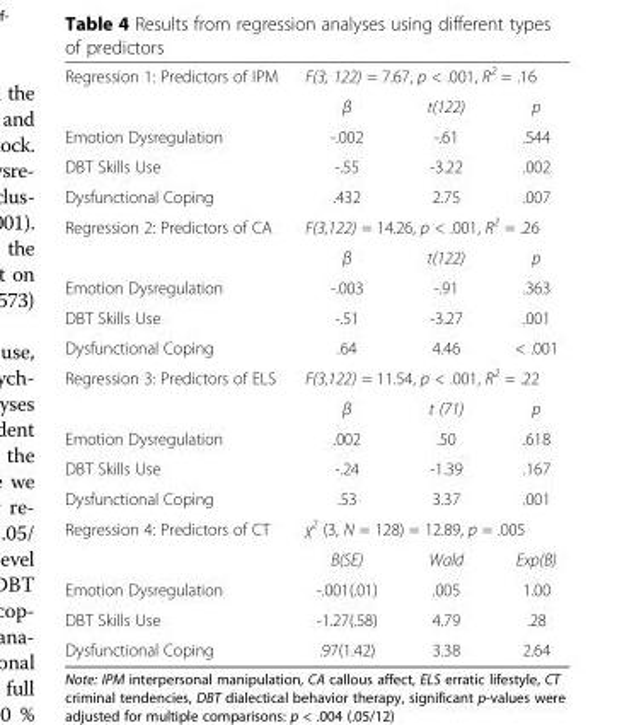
<table><tbody><tr><td rowspan="2">Regression 1: Predictors of IPM</td><td colspan="3">F(3, 122) = 7.67, p &lt; .001, R<sup>2</sup> = .16</td></tr><tr><td>β</td><td>t(122)</td><td>p</td></tr><tr><td>Emotion Dysregulation</td><td>-.002</td><td>-.61</td><td>.544</td></tr><tr><td>DBT Skills Use</td><td>-.55</td><td>-3.22</td><td>.002</td></tr><tr><td>Dysfunctional Coping</td><td>.432</td><td>2.75</td><td>.007</td></tr><tr><td rowspan="2">Regression 2: Predictors of CA</td><td colspan="3">F(3,122) = 14.26, p &lt; .001, R<sup>2</sup> = .26</td></tr><tr><td>β</td><td>t(122)</td><td>p</td></tr><tr><td>Emotion Dysregulation</td><td>-.003</td><td>-.91</td><td>.363</td></tr><tr><td>DBT Skills Use</td><td>-.51</td><td>-3.27</td><td>.001</td></tr><tr><td>Dysfunctional Coping</td><td>.64</td><td>4.46</td><td>&lt; .001</td></tr><tr><td rowspan="2">Regression 3: Predictors of ELS</td><td colspan="3">F(3,122) = 11.54, p &lt; .001, R<sup>2</sup> = .22</td></tr><tr><td>β</td><td>t (71)</td><td>p</td></tr><tr><td>Emotion Dysregulation</td><td>.002</td><td>.50</td><td>.618</td></tr><tr><td>DBT Skills Use</td><td>-.24</td><td>-1.39</td><td>.167</td></tr><tr><td>Dysfunctional Coping</td><td>.53</td><td>3.37</td><td>.001</td></tr><tr><td rowspan="2">Regression 4: Predictors of CT</td><td colspan="3">χ<sup>2</sup> (3, N = 128) = 12.89, p = .005</td></tr><tr><td>B(SE)</td><td>Wald</td><td>Exp(B)</td></tr><tr><td>Emotion Dysregulation</td><td>-.001(.01)</td><td>.005</td><td>1.00</td></tr><tr><td>DBT Skills Use</td><td>-1.27(.58)</td><td>4.79</td><td>.28</td></tr><tr><td>Dysfunctional Coping</td><td>.97(1.42)</td><td>3.38</td><td>2.64</td></tr></tbody></table>